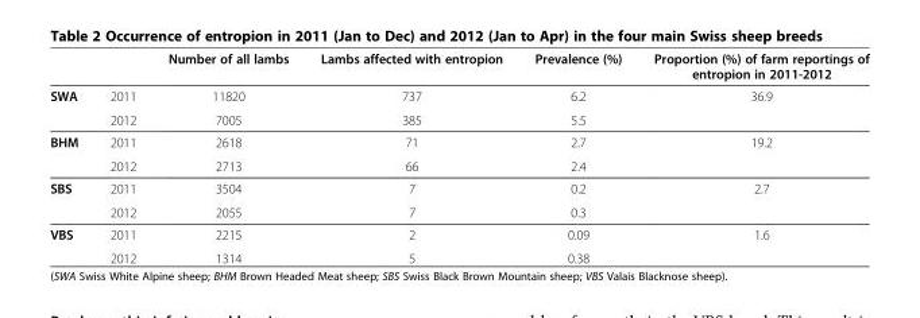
<table><thead><tr><td></td><td></td><td>Number of all lambs</td><td>Lambs affected with entropion</td><td>Prevalence (%)</td><td>Proportion (%) of farm reportings of entropion in 2011-2012</td></tr></thead><tbody><tr><td rowspan="2">SWA</td><td>2011</td><td>11820</td><td>737</td><td>6.2</td><td>36.9</td></tr><tr><td>2012</td><td>7005</td><td>385</td><td>5.5</td><td></td></tr><tr><td rowspan="2">BHM</td><td>2011</td><td>2618</td><td>71</td><td>2.7</td><td>19.2</td></tr><tr><td>2012</td><td>2713</td><td>66</td><td>2.4</td><td></td></tr><tr><td rowspan="2">SBS</td><td>2011</td><td>3504</td><td>7</td><td>0.2</td><td>2.7</td></tr><tr><td>2012</td><td>2055</td><td>7</td><td>0.3</td><td></td></tr><tr><td rowspan="2">VBS</td><td>2011</td><td>2215</td><td>2</td><td>0.09</td><td>1.6</td></tr><tr><td>2012</td><td>1314</td><td>5</td><td>0.38</td><td></td></tr></tbody></table>